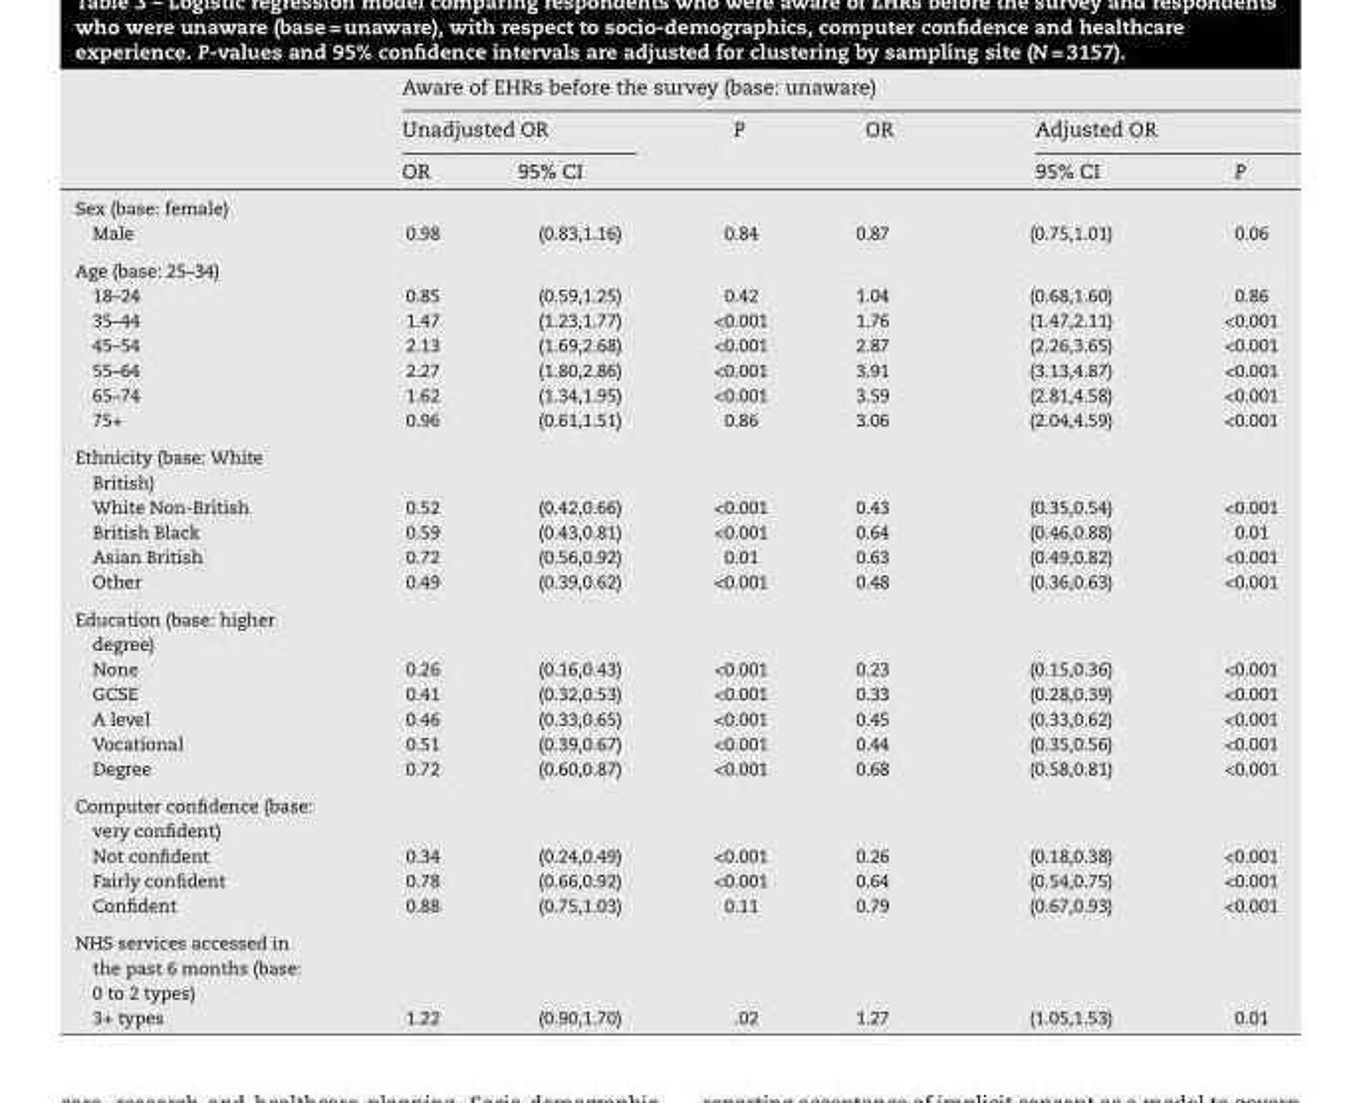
<table><thead><tr><td rowspan="3"></td><td colspan="6">Aware of EHRs before the survey (base: unaware)</td></tr><tr><td colspan="2">Unadjusted OR</td><td rowspan="2">P</td><td rowspan="2">OR</td><td colspan="2">Adjusted OR</td></tr><tr><td>OR</td><td>95% CI</td><td>95% CI</td><td>P</td></tr></thead><tbody><tr><td colspan="7">Sex (base: female)</td></tr><tr><td>Male</td><td>0.98</td><td>(0.83,1.16)</td><td>0.84</td><td>0.87</td><td>(0.75,1.01)</td><td>0.06</td></tr><tr><td colspan="7">Age (base: 25–34)</td></tr><tr><td>18–24</td><td>0.85</td><td>(0.59,1.25)</td><td>0.42</td><td>1.04</td><td>(0.68,1.60)</td><td>0.86</td></tr><tr><td>35–44</td><td>1.47</td><td>(1.23,1.77)</td><td>&lt;0.001</td><td>1.76</td><td>(1.47,2.11)</td><td>&lt;0.001</td></tr><tr><td>45–54</td><td>2.13</td><td>(1.69,2.68)</td><td>&lt;0.001</td><td>2.87</td><td>(2.26,3.65)</td><td>&lt;0.001</td></tr><tr><td>55–64</td><td>2.27</td><td>(1.80,2.86)</td><td>&lt;0.001</td><td>3.91</td><td>(3.13,4.87)</td><td>&lt;0.001</td></tr><tr><td>65–74</td><td>1.62</td><td>(1.34,1.95)</td><td>&lt;0.001</td><td>3.59</td><td>(2.81,4.58)</td><td>&lt;0.001</td></tr><tr><td>75+</td><td>0.96</td><td>(0.61,1.51)</td><td>0.86</td><td>3.06</td><td>(2.04,4.59)</td><td>&lt;0.001</td></tr><tr><td colspan="7">Ethnicity (base: White British)</td></tr><tr><td>White Non-British</td><td>0.52</td><td>(0.42,0.66)</td><td>&lt;0.001</td><td>0.43</td><td>(0.35,0.54)</td><td>&lt;0.001</td></tr><tr><td>British Black</td><td>0.59</td><td>(0.43,0.81)</td><td>&lt;0.001</td><td>0.64</td><td>(0.46,0.88)</td><td>0.01</td></tr><tr><td>Asian British</td><td>0.72</td><td>(0.56,0.92)</td><td>0.01</td><td>0.63</td><td>(0.49,0.82)</td><td>&lt;0.001</td></tr><tr><td>Other</td><td>0.49</td><td>(0.39,0.62)</td><td>&lt;0.001</td><td>0.48</td><td>(0.36,0.63)</td><td>&lt;0.001</td></tr><tr><td colspan="7">Education (base: higher degree)</td></tr><tr><td>None</td><td>0.26</td><td>(0.16,0.43)</td><td>&lt;0.001</td><td>0.23</td><td>(0.15,0.36)</td><td>&lt;0.001</td></tr><tr><td>GCSE</td><td>0.41</td><td>(0.32,0.53)</td><td>&lt;0.001</td><td>0.33</td><td>(0.28,0.39)</td><td>&lt;0.001</td></tr><tr><td>A level</td><td>0.46</td><td>(0.33,0.65)</td><td>&lt;0.001</td><td>0.45</td><td>(0.33,0.62)</td><td>&lt;0.001</td></tr><tr><td>Vocational</td><td>0.51</td><td>(0.39,0.67)</td><td>&lt;0.001</td><td>0.44</td><td>(0.35,0.56)</td><td>&lt;0.001</td></tr><tr><td>Degree</td><td>0.72</td><td>(0.60,0.87)</td><td>&lt;0.001</td><td>0.68</td><td>(0.58,0.81)</td><td>&lt;0.001</td></tr><tr><td colspan="7">Computer confidence (base: very confident)</td></tr><tr><td>Not confident</td><td>0.34</td><td>(0.24,0.49)</td><td>&lt;0.001</td><td>0.26</td><td>(0.18,0.38)</td><td>&lt;0.001</td></tr><tr><td>Fairly confident</td><td>0.78</td><td>(0.66,0.92)</td><td>&lt;0.001</td><td>0.64</td><td>(0.54,0.75)</td><td>&lt;0.001</td></tr><tr><td>Confident</td><td>0.88</td><td>(0.75,1.03)</td><td>0.11</td><td>0.79</td><td>(0.67,0.93)</td><td>&lt;0.001</td></tr><tr><td colspan="7">NHS services accessed in the past 6 months (base: 0 to 2 types)</td></tr><tr><td>3+ types</td><td>1.22</td><td>(0.90,1.70)</td><td>.02</td><td>1.27</td><td>(1.05,1.53)</td><td>0.01</td></tr></tbody></table>